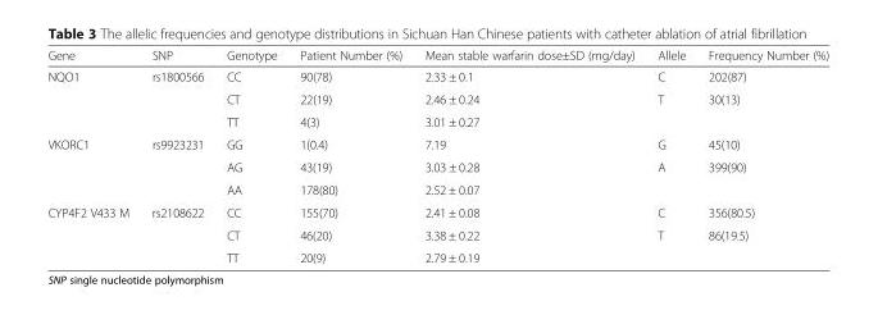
<table><thead><tr><td>Gene</td><td>SNP</td><td>Genotype</td><td>Patient Number (%)</td><td>Mean stable warfarin dose±SD (mg/day)</td><td>Allele</td><td>Frequency Number (%)</td></tr></thead><tbody><tr><td rowspan="3">NQO1</td><td>rs1800566</td><td>CC</td><td>90(78)</td><td>2.33 ± 0.1</td><td>C</td><td>202(87)</td></tr><tr><td></td><td>CT</td><td>22(19)</td><td>2.46 ± 0.24</td><td>T</td><td>30(13)</td></tr><tr><td></td><td>TT</td><td>4(3)</td><td>3.01 ± 0.27</td><td></td><td></td></tr><tr><td rowspan="3">VKORC1</td><td>rs9923231</td><td>GG</td><td>1(0.4)</td><td>7.19</td><td>G</td><td>45(10)</td></tr><tr><td></td><td>AG</td><td>43(19)</td><td>3.03 ± 0.28</td><td>A</td><td>399(90)</td></tr><tr><td></td><td>AA</td><td>178(80)</td><td>2.52 ± 0.07</td><td></td><td></td></tr><tr><td rowspan="3">CYP4F2 V433 M</td><td>rs2108622</td><td>CC</td><td>155(70)</td><td>2.41 ± 0.08</td><td>C</td><td>356(80.5)</td></tr><tr><td></td><td>CT</td><td>46(20)</td><td>3.38 ± 0.22</td><td>T</td><td>86(19.5)</td></tr><tr><td></td><td>TT</td><td>20(9)</td><td>2.79 ± 0.19</td><td></td><td></td></tr></tbody></table>